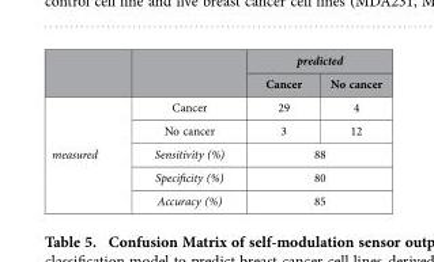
<table><thead><tr><td rowspan="2"></td><td rowspan="2"></td><td colspan="2">predicted</td></tr><tr><td>Cancer</td><td>No cancer</td></tr></thead><tbody><tr><td rowspan="5">measured</td><td>Cancer</td><td>29</td><td>4</td></tr><tr><td>No cancer</td><td>3</td><td>12</td></tr><tr><td>Sensitivity (%)</td><td colspan="2">88</td></tr><tr><td>Specificity (%)</td><td colspan="2">80</td></tr><tr><td>Accuracy (%)</td><td colspan="2">85</td></tr></tbody></table>